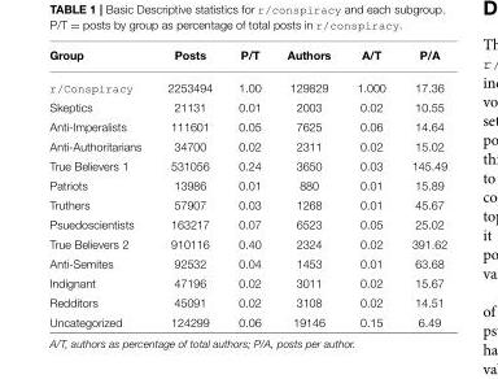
<table><thead><tr><td>Group</td><td>Posts</td><td>P/T</td><td>Authors</td><td>A/T</td><td>P/A</td></tr></thead><tbody><tr><td>r/Conspiracy</td><td>2253494</td><td>1.00</td><td>129829</td><td>1.000</td><td>17.36</td></tr><tr><td>Skeptics</td><td>21131</td><td>0.01</td><td>2003</td><td>0.02</td><td>10.55</td></tr><tr><td>Anti-Imperalists</td><td>111601</td><td>0.05</td><td>7625</td><td>0.06</td><td>14.64</td></tr><tr><td>Anti-Authoritarians</td><td>34700</td><td>0.02</td><td>2311</td><td>0.02</td><td>15.02</td></tr><tr><td>True Believers 1</td><td>531056</td><td>0.24</td><td>3650</td><td>0.03</td><td>145.49</td></tr><tr><td>Patriots</td><td>13986</td><td>0.01</td><td>880</td><td>0.01</td><td>15.89</td></tr><tr><td>Truthers</td><td>57907</td><td>0.03</td><td>1268</td><td>0.01</td><td>45.67</td></tr><tr><td>Psuedoscientists</td><td>163217</td><td>0.07</td><td>6523</td><td>0.05</td><td>25.02</td></tr><tr><td>True Believers 2</td><td>910116</td><td>0.40</td><td>2324</td><td>0.02</td><td>391.62</td></tr><tr><td>Anti-Semites</td><td>92532</td><td>0.04</td><td>1453</td><td>0.01</td><td>63.68</td></tr><tr><td>Indignant</td><td>47196</td><td>0.02</td><td>3011</td><td>0.02</td><td>15.67</td></tr><tr><td>Redditors</td><td>45091</td><td>0.02</td><td>3108</td><td>0.02</td><td>14.51</td></tr><tr><td>Uncategorized</td><td>124299</td><td>0.06</td><td>19146</td><td>0.15</td><td>6.49</td></tr></tbody></table>